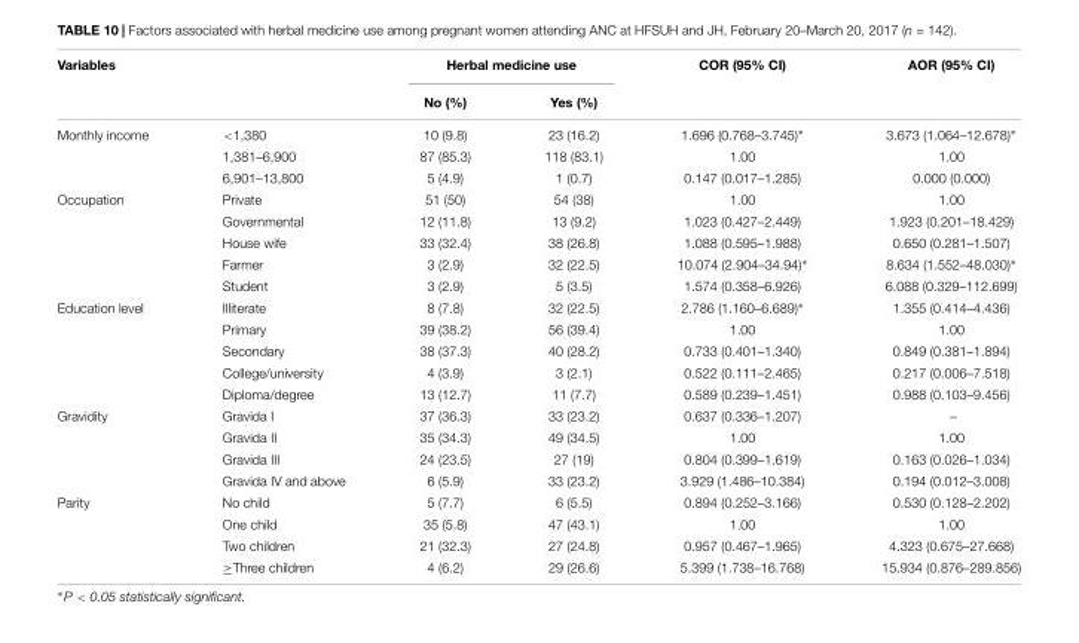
<table><thead><tr><td colspan="2">Variables</td><td colspan="2">Herbal medicine use</td><td rowspan="2">COR (95% CI)</td><td rowspan="2">AOR (95% CI)</td></tr><tr><td></td><td></td><td>No (%)</td><td>Yes (%)</td></tr></thead><tbody><tr><td rowspan="3">Monthly income</td><td>&lt;1,380</td><td>10 (9.8)</td><td>23 (16.2)</td><td>1.696 (0.768–3.745)∗</td><td>3.673 (1.064–12.678)∗</td></tr><tr><td>1,381–6,900</td><td>87 (85.3)</td><td>118 (83.1)</td><td>1.00</td><td>1.00</td></tr><tr><td>6,901–13,800</td><td>5 (4.9)</td><td>1 (0.7)</td><td>0.147 (0.017–1.285)</td><td>0.000 (0.000)</td></tr><tr><td rowspan="5">Occupation</td><td>Private</td><td>51 (50)</td><td>54 (38)</td><td>1.00</td><td>1.00</td></tr><tr><td>Governmental</td><td>12 (11.8)</td><td>13 (9.2)</td><td>1.023 (0.427–2.449)</td><td>1.923 (0.201–18.429)</td></tr><tr><td>House wife</td><td>33 (32.4)</td><td>38 (26.8)</td><td>1.088 (0.595–1.988)</td><td>0.650 (0.281–1.507)</td></tr><tr><td>Farmer</td><td>3 (2.9)</td><td>32 (22.5)</td><td>10.074 (2.904–34.94)∗</td><td>8.634 (1.552–48.030)∗</td></tr><tr><td>Student</td><td>3 (2.9)</td><td>5 (3.5)</td><td>1.574 (0.358–6.926)</td><td>6.088 (0.329–112.699)</td></tr><tr><td rowspan="5">Education level</td><td>Illiterate</td><td>8 (7.8)</td><td>32 (22.5)</td><td>2.786 (1.160–6.689)∗</td><td>1.355 (0.414–4.436)</td></tr><tr><td>Primary</td><td>39 (38.2)</td><td>56 (39.4)</td><td>1.00</td><td>1.00</td></tr><tr><td>Secondary</td><td>38 (37.3)</td><td>40 (28.2)</td><td>0.733 (0.401–1.340)</td><td>0.849 (0.381–1.894)</td></tr><tr><td>College/university</td><td>4 (3.9)</td><td>3 (2.1)</td><td>0.522 (0.111–2.465)</td><td>0.217 (0.006–7.518)</td></tr><tr><td>Diploma/degree</td><td>13 (12.7)</td><td>11 (7.7)</td><td>0.589 (0.239–1.451)</td><td>0.988 (0.103–9.456)</td></tr><tr><td rowspan="4">Gravidity</td><td>Gravida I</td><td>37 (36.3)</td><td>33 (23.2)</td><td>0.637 (0.336–1.207)</td><td>–</td></tr><tr><td>Gravida II</td><td>35 (34.3)</td><td>49 (34.5)</td><td>1.00</td><td>1.00</td></tr><tr><td>Gravida III</td><td>24 (23.5)</td><td>27 (19)</td><td>0.804 (0.399–1.619)</td><td>0.163 (0.026–1.034)</td></tr><tr><td>Gravida IV and above</td><td>6 (5.9)</td><td>33 (23.2)</td><td>3.929 (1.486–10.384)</td><td>0.194 (0.012–3.008)</td></tr><tr><td rowspan="4">Parity</td><td>No child</td><td>5 (7.7)</td><td>6 (5.5)</td><td>0.894 (0.252–3.166)</td><td>0.530 (0.128–2.202)</td></tr><tr><td>One child</td><td>35 (5.8)</td><td>47 (43.1)</td><td>1.00</td><td>1.00</td></tr><tr><td>Two children</td><td>21 (32.3)</td><td>27 (24.8)</td><td>0.957 (0.467–1.965)</td><td>4.323 (0.675–27.668)</td></tr><tr><td>≥Three children</td><td>4 (6.2)</td><td>29 (26.6)</td><td>5.399 (1.738–16.768)</td><td>15.934 (0.876–289.856)</td></tr></tbody></table>